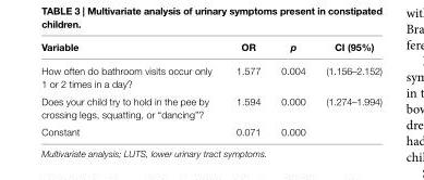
<table><thead><tr><td>Variable</td><td>Or</td><td>p</td><td>ci (95%)</td></tr></thead><tbody><tr><td>How often do bathroom visits occur only 1 or 2 times in a day?</td><td>1.577</td><td>0.004</td><td>(1.156–2.152)</td></tr><tr><td>Does your child try to hold in the pee by crossing legs, squatting, or “dancing”?</td><td>1.594</td><td>0.000</td><td>(1.274–1.994)</td></tr><tr><td>Constant</td><td>0.071</td><td>0.000</td><td></td></tr></tbody></table>